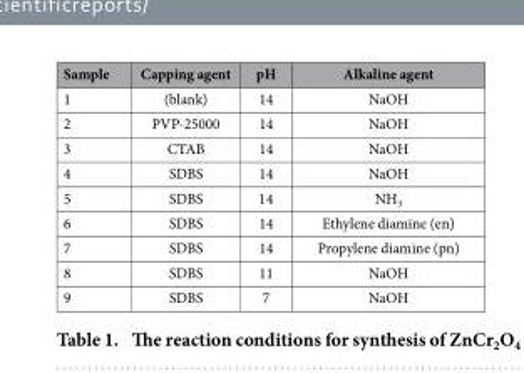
<table><thead><tr><td>Sample</td><td>Capping agent</td><td>pH</td><td>Alkaline agent</td></tr></thead><tbody><tr><td>1</td><td>(blank)</td><td>14</td><td>NaOH</td></tr><tr><td>2</td><td>PVP-25000</td><td>14</td><td>NaOH</td></tr><tr><td>3</td><td>CTAB</td><td>14</td><td>NaOH</td></tr><tr><td>4</td><td>SDBS</td><td>14</td><td>NaOH</td></tr><tr><td>5</td><td>SDBS</td><td>14</td><td>NH<sub>3</sub></td></tr><tr><td>6</td><td>SDBS</td><td>14</td><td>Ethylene diamine (en)</td></tr><tr><td>7</td><td>SDBS</td><td>14</td><td>Propylene diamine (pn)</td></tr><tr><td>8</td><td>SDBS</td><td>11</td><td>NaOH</td></tr><tr><td>9</td><td>SDBS</td><td>7</td><td>NaOH</td></tr></tbody></table>